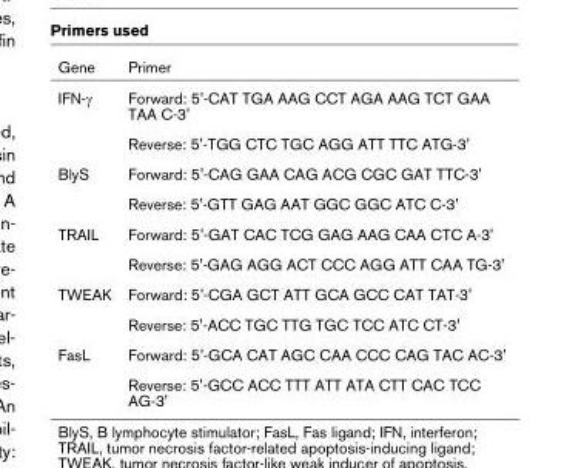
<table><thead><tr><td>Gene</td><td>Primer</td></tr></thead><tbody><tr><td rowspan="2">IFN-γ</td><td>Forward: 5&#x27;-CAT TGA AAG CCT AGA AAG TCT GAA TAA C-3&#x27;</td></tr><tr><td>Reverse: 5&#x27;-TGG CTC TGC AGG ATT TTC ATG-3&#x27;</td></tr><tr><td rowspan="2">BlyS</td><td>Forward: 5&#x27;-CAG GAA CAG ACG CGC GAT TTC-3&#x27;</td></tr><tr><td>Reverse: 5&#x27;-GTT GAG AAT GGC GGC ATC C-3&#x27;</td></tr><tr><td rowspan="2">TRAIL</td><td>Forward: 5&#x27;-GAT CAC TCG GAG AAG CAA CTC A-3&#x27;</td></tr><tr><td>Reverse: 5&#x27;-GAG AGG ACT CCC AGG ATT CAA TG-3&#x27;</td></tr><tr><td rowspan="2">TWEAK</td><td>Forward: 5&#x27;-CGA GCT ATT GCA GCC CAT TAT-3&#x27;</td></tr><tr><td>Reverse: 5&#x27;-ACC TGC TTG TGC TCC ATC CT-3&#x27;</td></tr><tr><td rowspan="2">FasL</td><td>Forward: 5&#x27;-GCA CAT AGC CAA CCC CAG TAC AC-3&#x27;</td></tr><tr><td>Reverse: 5&#x27;-GCC ACC TTT ATT ATA CTT CAC TCC AG-3&#x27;</td></tr></tbody></table>